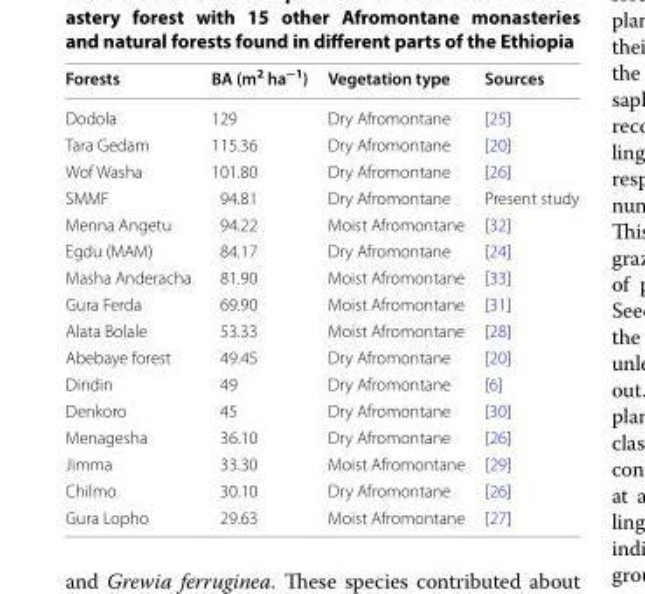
<table><thead><tr><td>Forests</td><td>BA (m<sup>2</sup> ha<sup>−1</sup>)</td><td>Vegetation type</td><td>Sources</td></tr></thead><tbody><tr><td>Dodola</td><td>129</td><td>Dry Afromontane</td><td>[25]</td></tr><tr><td>Tara Gedam</td><td>115.36</td><td>Dry Afromontane</td><td>[20]</td></tr><tr><td>Wof Washa</td><td>101.80</td><td>Dry Afromontane</td><td>[26]</td></tr><tr><td>SMMF</td><td>94.81</td><td>Dry Afromontane</td><td>Present study</td></tr><tr><td>Menna Angetu</td><td>94.22</td><td>Moist Afromontane</td><td>[32]</td></tr><tr><td>Egdu (MAM)</td><td>84.17</td><td>Dry Afromontane</td><td>[24]</td></tr><tr><td>Masha Anderacha</td><td>81.90</td><td>Moist Afromontane</td><td>[33]</td></tr><tr><td>Gura Ferda</td><td>69.90</td><td>Moist Afromontane</td><td>[31]</td></tr><tr><td>Alata Bolale</td><td>53.33</td><td>Moist Afromontane</td><td>[28]</td></tr><tr><td>Abebaye forest</td><td>49.45</td><td>Dry Afromontane</td><td>[20]</td></tr><tr><td>Dindin</td><td>49</td><td>Dry Afromontane</td><td>[6]</td></tr><tr><td>Denkoro</td><td>45</td><td>Dry Afromontane</td><td>[30]</td></tr><tr><td>Menagesha</td><td>36.10</td><td>Dry Afromontane</td><td>[26]</td></tr><tr><td>Jimma</td><td>33.30</td><td>Moist Afromontane</td><td>[29]</td></tr><tr><td>Chilmo</td><td>30.10</td><td>Dry Afromontane</td><td>[26]</td></tr><tr><td>Gura Lopho</td><td>29.63</td><td>Moist Afromontane</td><td>[27]</td></tr></tbody></table>